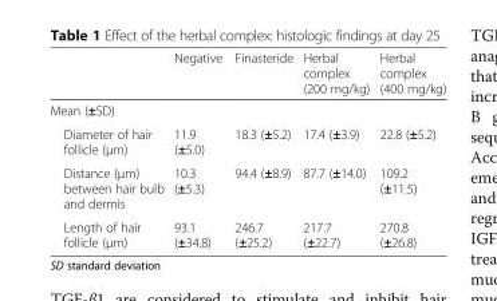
<table><thead><tr><td></td><td>Negative</td><td>Finasteride</td><td>Herbal complex (200 mg/kg)</td><td>Herbal complex (400 mg/kg)</td></tr></thead><tbody><tr><td colspan="5">Mean (±SD)</td></tr><tr><td>Diameter of hair follicle (μm)</td><td>11.9 (±5.0)</td><td>18.3 (±5.2)</td><td>17.4 (±3.9)</td><td>22.8 (±5.2)</td></tr><tr><td>Distance (μm) between hair bulb and dermis</td><td>10.3 (±5.3)</td><td>94.4 (±8.9)</td><td>87.7 (±14.0)</td><td>109.2 (±11.5)</td></tr><tr><td>Length of hair follicle (μm)</td><td>93.1 (±34.8)</td><td>246.7 (±25.2)</td><td>217.7 (±22.7)</td><td>270.8 (±26.8)</td></tr></tbody></table>